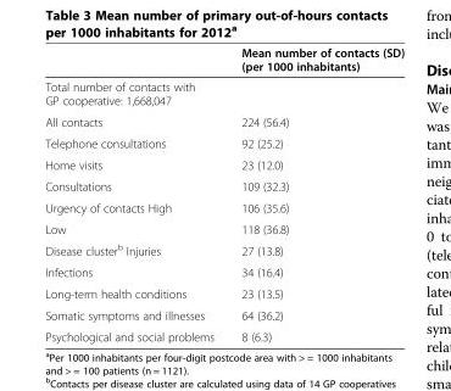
<table><thead><tr><td></td><td>Mean number of contacts (SD) (per 1000 inhabitants)</td></tr></thead><tbody><tr><td colspan="2">Total number of contacts with GP cooperative: 1,668,047</td></tr><tr><td>All contacts</td><td>224 (56.4)</td></tr><tr><td>Telephone consultations</td><td>92 (25.2)</td></tr><tr><td>Home visits</td><td>23 (12.0)</td></tr><tr><td>Consultations</td><td>109 (32.3)</td></tr><tr><td>Urgency of contacts High</td><td>106 (35.6)</td></tr><tr><td>Low</td><td>118 (36.8)</td></tr><tr><td>Disease cluster<sup>b</sup> Injuries</td><td>27 (13.8)</td></tr><tr><td>Infections</td><td>34 (16.4)</td></tr><tr><td>Long-term health conditions</td><td>23 (13.5)</td></tr><tr><td>Somatic symptoms and illnesses</td><td>64 (36.2)</td></tr><tr><td>Psychological and social problems</td><td>8 (6.3)</td></tr></tbody></table>